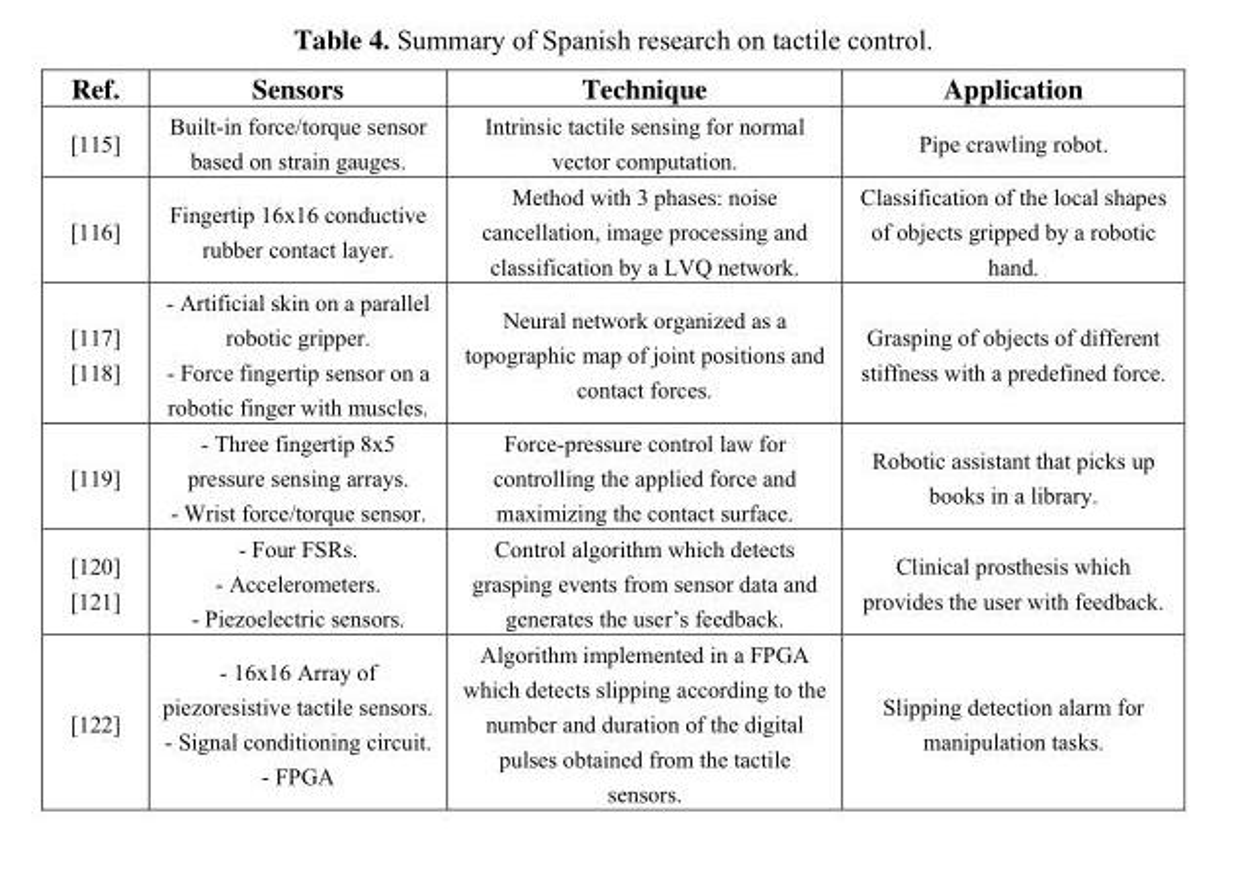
<table><thead><tr><td>Ref.</td><td>Sensors</td><td>Technique</td><td>Application</td></tr></thead><tbody><tr><td>[115]</td><td>Built-in force/torque sensor based on strain gauges.</td><td>Intrinsic tactile sensing for normal vector computation.</td><td>Pipe crawling robot.</td></tr><tr><td>[116]</td><td>Fingertip 16x16 conductive rubber contact layer.</td><td>Method with 3 phases: noise cancellation, image processing and classification by a LVQ network.</td><td>Classification of the local shapes of objects gripped by a robotic hand.</td></tr><tr><td>[117] [118]</td><td>- Artificial skin on a parallel robotic gripper. - Force fingertip sensor on a robotic finger with muscles.</td><td>Neural network organized as a topographic map of joint positions and contact forces.</td><td>Grasping of objects of different stiffness with a predefined force.</td></tr><tr><td>[119]</td><td>- Three fingertip 8x5 pressure sensing arrays. - Wrist force/torque sensor.</td><td>Force-pressure control law for controlling the applied force and maximizing the contact surface.</td><td>Robotic assistant that picks up books in a library.</td></tr><tr><td>[120] [121]</td><td>- Four FSRs. - Accelerometers. - Piezoelectric sensors.</td><td>Control algorithm which detects grasping events from sensor data and generates the user’s feedback.</td><td>Clinical prosthesis which provides the user with feedback.</td></tr><tr><td>[122]</td><td>- 16x16 Array of piezoresistive tactile sensors. - Signal conditioning circuit. - FPGA</td><td>Algorithm implemented in a FPGA which detects slipping according to the number and duration of the digital pulses obtained from the tactile sensors.</td><td>Slipping detection alarm for manipulation tasks.</td></tr></tbody></table>